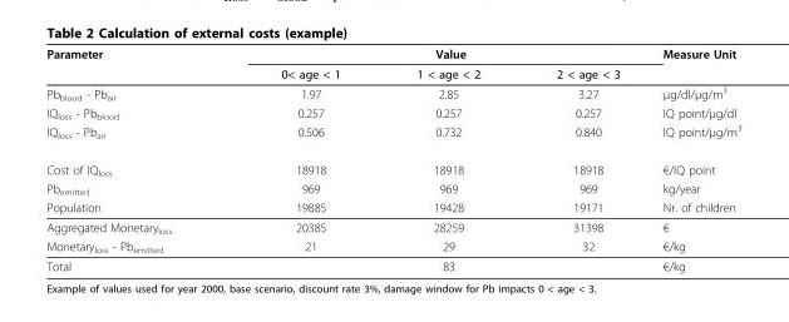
<table><thead><tr><td rowspan="2">Parameter</td><td colspan="3">Value</td><td rowspan="2">Measure Unit</td></tr><tr><td>0&lt; age &lt; 1</td><td>1 &lt; age &lt; 2</td><td>2 &lt; age &lt; 3</td></tr></thead><tbody><tr><td>Pb<sub>blood</sub> - Pb<sub>air</sub></td><td>1.97</td><td>2.85</td><td>3.27</td><td>μg/dl/μg/m<sup>3</sup></td></tr><tr><td>IQ<sub>loss</sub> - Pb<sub>blood</sub></td><td>0.257</td><td>0.257</td><td>0.257</td><td>IQ point/μg/dl</td></tr><tr><td>IQ<sub>loss</sub> - Pb<sub>air</sub></td><td>0.506</td><td>0.732</td><td>0.840</td><td>IQ point/μg/m<sup>3</sup></td></tr><tr><td>Cost of IQ<sub>loss</sub></td><td>18918</td><td>18918</td><td>18918</td><td>€/IQ point</td></tr><tr><td>Pb<sub>emitted</sub></td><td>969</td><td>969</td><td>969</td><td>kg/year</td></tr><tr><td>Population</td><td>19885</td><td>19428</td><td>19171</td><td>Nr. of children</td></tr><tr><td>Aggregated Monetary<sub>loss</sub></td><td>20385</td><td>28259</td><td>31398</td><td>€</td></tr><tr><td>Monetary<sub>loss</sub> - Pb<sub>emitted</sub></td><td>21</td><td>29</td><td>32</td><td>€/kg</td></tr><tr><td>Total</td><td></td><td>83</td><td></td><td>€/kg</td></tr></tbody></table>